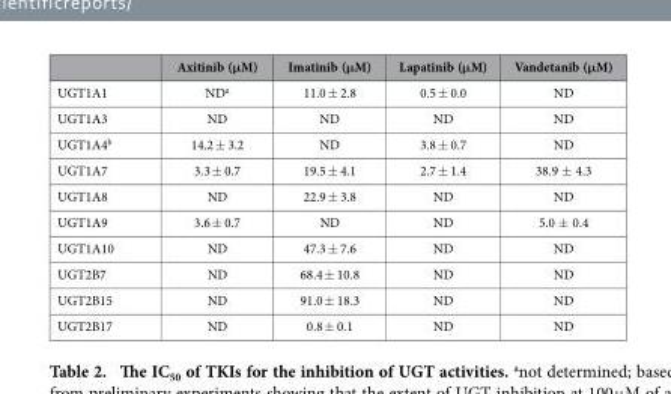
<table><thead><tr><td></td><td>Axitinib (μM)</td><td>Imatinib (μM)</td><td>Lapatinib (μM)</td><td>Vandetanib (μM)</td></tr></thead><tbody><tr><td>UGT1A1</td><td>ND<sup>a</sup></td><td>11.0 ± 2.8</td><td>0.5 ± 0.0</td><td>ND</td></tr><tr><td>UGT1A3</td><td>ND</td><td>ND</td><td>ND</td><td>ND</td></tr><tr><td>UGT1A4<sup>b</sup></td><td>14.2 ± 3.2</td><td>ND</td><td>3.8 ± 0.7</td><td>ND</td></tr><tr><td>UGT1A7</td><td>3.3 ± 0.7</td><td>19.5 ± 4.1</td><td>2.7 ± 1.4</td><td>38.9 ± 4.3</td></tr><tr><td>UGT1A8</td><td>ND</td><td>22.9 ± 3.8</td><td>ND</td><td>ND</td></tr><tr><td>UGT1A9</td><td>3.6 ± 0.7</td><td>ND</td><td>ND</td><td>5.0 ± 0.4</td></tr><tr><td>UGT1A10</td><td>ND</td><td>47.3 ± 7.6</td><td>ND</td><td>ND</td></tr><tr><td>UGT2B7</td><td>ND</td><td>68.4 ± 10.8</td><td>ND</td><td>ND</td></tr><tr><td>UGT2B15</td><td>ND</td><td>91.0 ± 18.3</td><td>ND</td><td>ND</td></tr><tr><td>UGT2B17</td><td>ND</td><td>0.8 ± 0.1</td><td>ND</td><td>ND</td></tr></tbody></table>